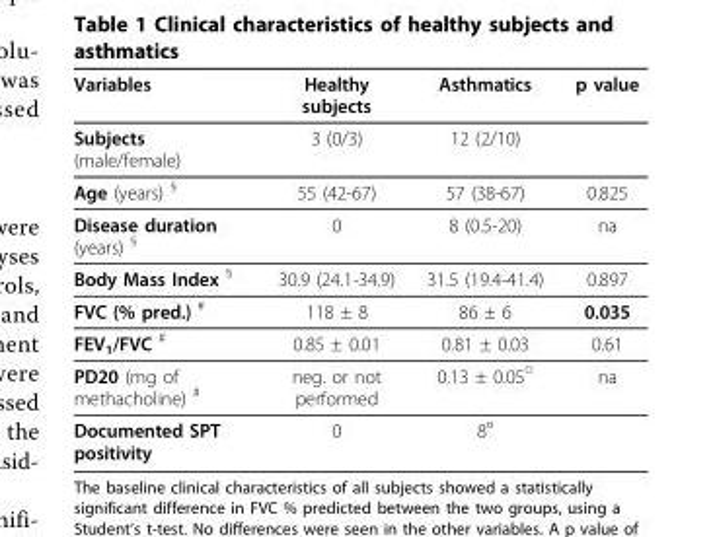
<table><thead><tr><td>Variables</td><td>Healthy subjects</td><td>Asthmatics</td><td>p value</td></tr></thead><tbody><tr><td>Subjects (male/female)</td><td>3 (0/3)</td><td>12 (2/10)</td><td></td></tr><tr><td>Age (years) <sup>§</sup></td><td>55 (42-67)</td><td>57 (38-67)</td><td>0.825</td></tr><tr><td>Disease duration (years) <sup>§</sup></td><td>0</td><td>8 (0.5-20)</td><td>na</td></tr><tr><td>Body Mass Index <sup>§</sup></td><td>30.9 (24.1-34.9)</td><td>31.5 (19.4-41.4)</td><td>0.897</td></tr><tr><td>FVC (% pred.) <sup>#</sup></td><td>118 ± 8</td><td>86 ± 6</td><td>0.035</td></tr><tr><td>FEV<sub>1</sub>/FVC <sup>#</sup></td><td>0.85 ± 0.01</td><td>0.81 ± 0.03</td><td>0.61</td></tr><tr><td>PD20 (mg of methacholine) <sup>#</sup></td><td>neg. or not performed</td><td>0.13 ± 0.05<sup>□</sup></td><td>na</td></tr><tr><td>Documented SPT positivity</td><td>0</td><td>8<sup>¤</sup></td><td></td></tr></tbody></table>